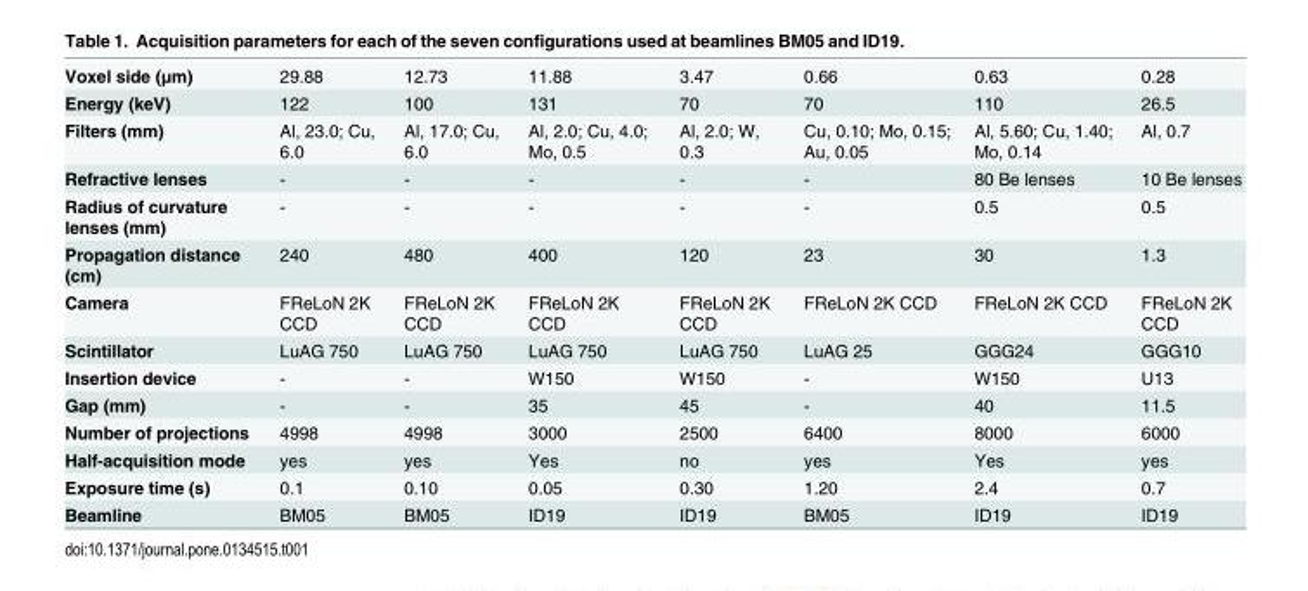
<table><tbody><tr><td>Voxel side (μm)</td><td>29.88</td><td>12.73</td><td>11.88</td><td>3.47</td><td>0.66</td><td>0.63</td><td>0.28</td></tr><tr><td>Energy (keV)</td><td>122</td><td>100</td><td>131</td><td>70</td><td>70</td><td>110</td><td>26.5</td></tr><tr><td>Filters (mm)</td><td>Al, 23.0; Cu, 6.0</td><td>Al, 17.0; Cu, 6.0</td><td>Al, 2.0; Cu, 4.0; Mo, 0.5</td><td>Al, 2.0; W, 0.3</td><td>Cu, 0.10; Mo, 0.15; Au, 0.05</td><td>Al, 5.60; Cu, 1.40; Mo, 0.14</td><td>Al, 0.7</td></tr><tr><td>Refractive lenses</td><td>-</td><td>-</td><td>-</td><td>-</td><td>-</td><td>80 Be lenses</td><td>10 Be lenses</td></tr><tr><td>Radius of curvature lenses (mm)</td><td>-</td><td>-</td><td>-</td><td>-</td><td>-</td><td>0.5</td><td>0.5</td></tr><tr><td>Propagation distance (cm)</td><td>240</td><td>480</td><td>400</td><td>120</td><td>23</td><td>30</td><td>1.3</td></tr><tr><td>Camera</td><td>FReLoN 2K CCD</td><td>FReLoN 2K CCD</td><td>FReLoN 2K CCD</td><td>FReLoN 2K CCD</td><td>FReLoN 2K CCD</td><td>FReLoN 2K CCD</td><td>FReLoN 2K CCD</td></tr><tr><td>Scintillator</td><td>LuAG 750</td><td>LuAG 750</td><td>LuAG 750</td><td>LuAG 750</td><td>LuAG 25</td><td>GGG24</td><td>GGG10</td></tr><tr><td>Insertion device</td><td>-</td><td>-</td><td>W150</td><td>W150</td><td>-</td><td>W150</td><td>U13</td></tr><tr><td>Gap (mm)</td><td>-</td><td>-</td><td>35</td><td>45</td><td>-</td><td>40</td><td>11.5</td></tr><tr><td>Number of projections</td><td>4998</td><td>4998</td><td>3000</td><td>2500</td><td>6400</td><td>8000</td><td>6000</td></tr><tr><td>Half-acquisition mode</td><td>yes</td><td>yes</td><td>Yes</td><td>no</td><td>yes</td><td>Yes</td><td>yes</td></tr><tr><td>Exposure time (s)</td><td>0.1</td><td>0.10</td><td>0.05</td><td>0.30</td><td>1.20</td><td>2.4</td><td>0.7</td></tr><tr><td>Beamline</td><td>BM05</td><td>BM05</td><td>ID19</td><td>ID19</td><td>BM05</td><td>ID19</td><td>ID19</td></tr></tbody></table>